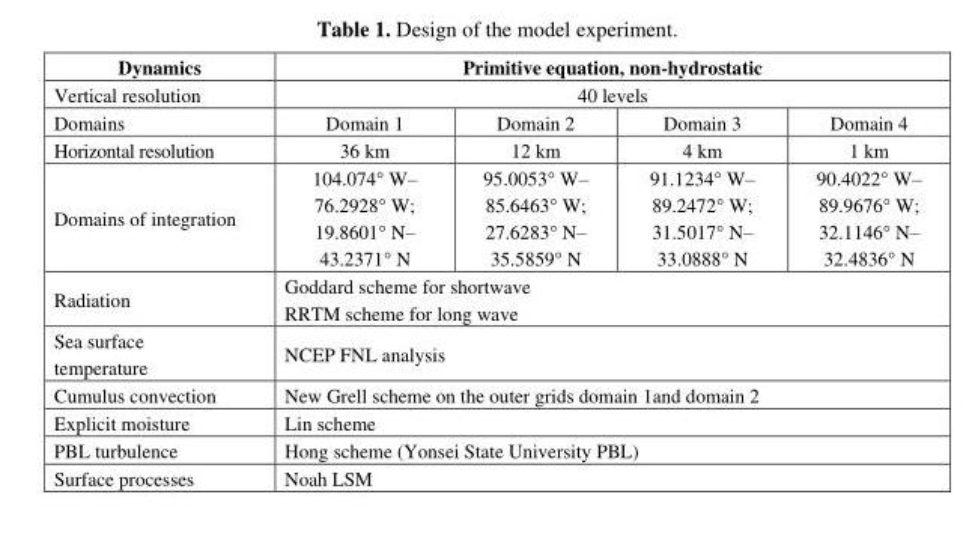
<table><thead><tr><td rowspan="3">Dynamics Vertical resolution Domains</td><td rowspan="2" colspan="4">Primitive equation, non-hydrostatic 40 levels</td></tr><tr></tr><tr><td>Domain 1</td><td>Domain 2</td><td>Domain 3</td><td>Domain 4</td></tr></thead><tbody><tr><td>Horizontal resolution</td><td>36 km</td><td>12 km</td><td>4 km</td><td>1 km</td></tr><tr><td>Domains of integration</td><td>104.074° W– 76.2928° W; 19.8601° N– 43.2371° N</td><td>95.0053° W– 85.6463° W; 27.6283° N– 35.5859° N</td><td>91.1234° W– 89.2472° W; 31.5017° N– 33.0888° N</td><td>90.4022° W– 89.9676° W; 32.1146° N– 32.4836° N</td></tr><tr><td>Radiation</td><td colspan="4">Goddard scheme for shortwave RRTM scheme for long wave</td></tr><tr><td>Sea surface temperature</td><td colspan="4">NCEP FNL analysis</td></tr><tr><td>Cumulus convection</td><td colspan="4">New Grell scheme on the outer grids domain 1and domain 2</td></tr><tr><td>Explicit moisture</td><td colspan="4">Lin scheme</td></tr><tr><td>PBL turbulence</td><td colspan="4">Hong scheme (Yonsei State University PBL)</td></tr><tr><td>Surface processes</td><td colspan="4">Noah LSM</td></tr></tbody></table>